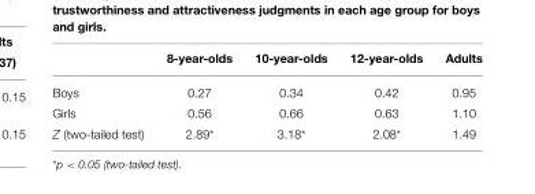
<table><thead><tr><td></td><td>8-year-olds</td><td>10-year-olds</td><td>12-year-olds</td><td>Adults</td></tr></thead><tbody><tr><td>Boys</td><td>0.27</td><td>0.34</td><td>0.42</td><td>0.95</td></tr><tr><td>Girls</td><td>0.56</td><td>0.66</td><td>0.63</td><td>1.10</td></tr><tr><td>Z (two-tailed test)</td><td>2.89*</td><td>3.18*</td><td>2.08*</td><td>1.49</td></tr></tbody></table>